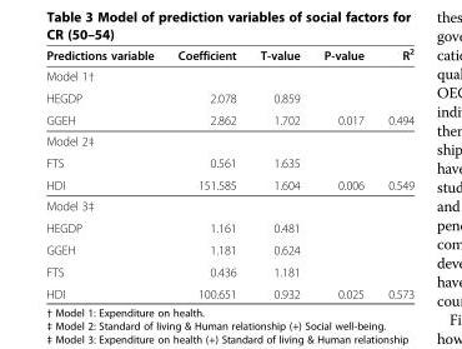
<table><thead><tr><td>Predictions variable</td><td>Coefficient</td><td>T-value</td><td>P-value</td><td>R<sup>2</sup></td></tr></thead><tbody><tr><td colspan="5">Model 1†</td></tr><tr><td>HEGDP</td><td>2.078</td><td>0.859</td><td></td><td></td></tr><tr><td>GGEH</td><td>2.862</td><td>1.702</td><td>0.017</td><td>0.494</td></tr><tr><td colspan="5">Model 2‡</td></tr><tr><td>FTS</td><td>0.561</td><td>1.635</td><td></td><td></td></tr><tr><td>HDI</td><td>151.585</td><td>1.604</td><td>0.006</td><td>0.549</td></tr><tr><td colspan="5">Model 3‡</td></tr><tr><td>HEGDP</td><td>1.161</td><td>0.481</td><td></td><td></td></tr><tr><td>GGEH</td><td>1.181</td><td>0.624</td><td></td><td></td></tr><tr><td>FTS</td><td>0.436</td><td>1.181</td><td></td><td></td></tr><tr><td>HDI</td><td>100.651</td><td>0.932</td><td>0.025</td><td>0.573</td></tr></tbody></table>